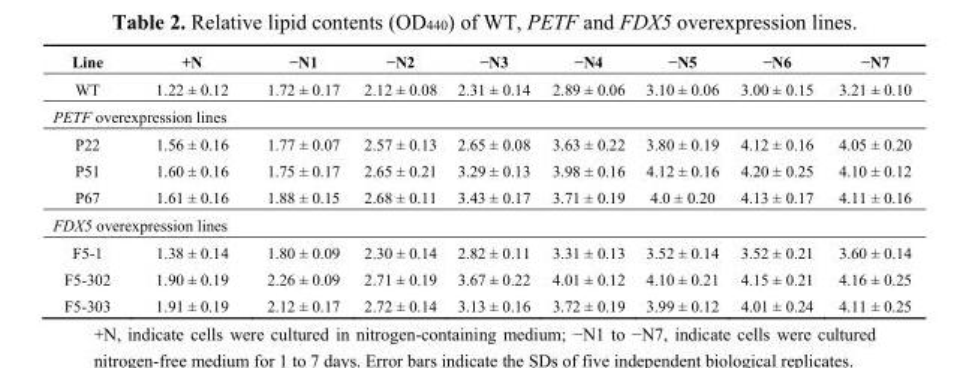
<table><thead><tr><td>Line</td><td>+N</td><td>−N1</td><td>−N2</td><td>−N3</td><td>−N4</td><td>−N5</td><td>−N6</td><td>−N7</td></tr></thead><tbody><tr><td>WT</td><td>1.22 ± 0.12</td><td>1.72 ± 0.17</td><td>2.12 ± 0.08</td><td>2.31 ± 0.14</td><td>2.89 ± 0.06</td><td>3.10 ± 0.06</td><td>3.00 ± 0.15</td><td>3.21 ± 0.10</td></tr><tr><td colspan="9">PETF overexpression lines</td></tr><tr><td>P22</td><td>1.56 ± 0.16</td><td>1.77 ± 0.07</td><td>2.57 ± 0.13</td><td>2.65 ± 0.08</td><td>3.63 ± 0.22</td><td>3.80 ± 0.19</td><td>4.12 ± 0.16</td><td>4.05 ± 0.20</td></tr><tr><td>P51</td><td>1.60 ± 0.16</td><td>1.75 ± 0.17</td><td>2.65 ± 0.21</td><td>3.29 ± 0.13</td><td>3.98 ± 0.16</td><td>4.12 ± 0.16</td><td>4.20 ± 0.25</td><td>4.10 ± 0.12</td></tr><tr><td>P67</td><td>1.61 ± 0.16</td><td>1.88 ± 0.15</td><td>2.68 ± 0.11</td><td>3.43 ± 0.17</td><td>3.71 ± 0.19</td><td>4.0 ± 0.20</td><td>4.13 ± 0.17</td><td>4.11 ± 0.16</td></tr><tr><td colspan="9">FDX5 overexpression lines</td></tr><tr><td>F5-1</td><td>1.38 ± 0.14</td><td>1.80 ± 0.09</td><td>2.30 ± 0.14</td><td>2.82 ± 0.11</td><td>3.31 ± 0.13</td><td>3.52 ± 0.14</td><td>3.52 ± 0.21</td><td>3.60 ± 0.14</td></tr><tr><td>F5-302</td><td>1.90 ± 0.19</td><td>2.26 ± 0.09</td><td>2.71 ± 0.19</td><td>3.67 ± 0.22</td><td>4.01 ± 0.12</td><td>4.10 ± 0.21</td><td>4.15 ± 0.21</td><td>4.16 ± 0.25</td></tr><tr><td>F5-303</td><td>1.91 ± 0.19</td><td>2.12 ± 0.17</td><td>2.72 ± 0.14</td><td>3.13 ± 0.16</td><td>3.72 ± 0.19</td><td>3.99 ± 0.12</td><td>4.01 ± 0.24</td><td>4.11 ± 0.25</td></tr></tbody></table>